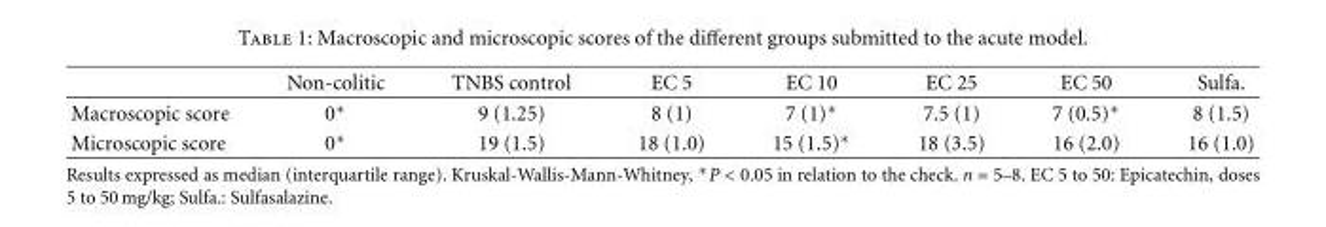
<table><thead><tr><td></td><td>Non-colitic</td><td>TNBS control</td><td>EC 5</td><td>EC 10</td><td>EC 25</td><td>EC 50</td><td>Sulfa.</td></tr></thead><tbody><tr><td>Macroscopic score</td><td>0∗</td><td>9 (1.25)</td><td>8 (1)</td><td>7 (1)∗</td><td>7.5 (1)</td><td>7 (0.5)∗</td><td>8 (1.5)</td></tr><tr><td>Microscopic score</td><td>0∗</td><td>19 (1.5)</td><td>18 (1.0)</td><td>15 (1.5)∗</td><td>18 (3.5)</td><td>16 (2.0)</td><td>16 (1.0)</td></tr></tbody></table>